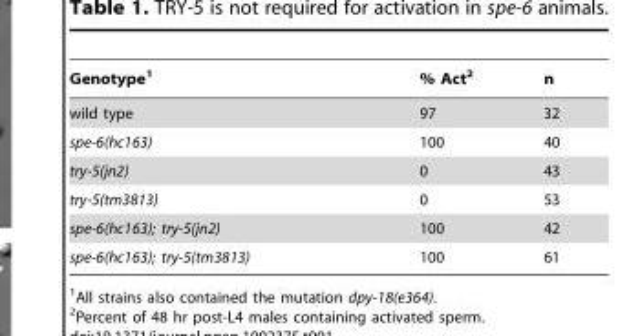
<table><thead><tr><td>Genotype<sup>1</sup></td><td>% Act<sup>2</sup></td><td>n</td></tr></thead><tbody><tr><td>wild type</td><td>97</td><td>32</td></tr><tr><td>spe-6(hc163)</td><td>100</td><td>40</td></tr><tr><td>try-5(jn2)</td><td>0</td><td>43</td></tr><tr><td>try-5(tm3813)</td><td>0</td><td>53</td></tr><tr><td>spe-6(hc163); try-5(jn2)</td><td>100</td><td>42</td></tr><tr><td>spe-6(hc163); try-5(tm3813)</td><td>100</td><td>61</td></tr></tbody></table>